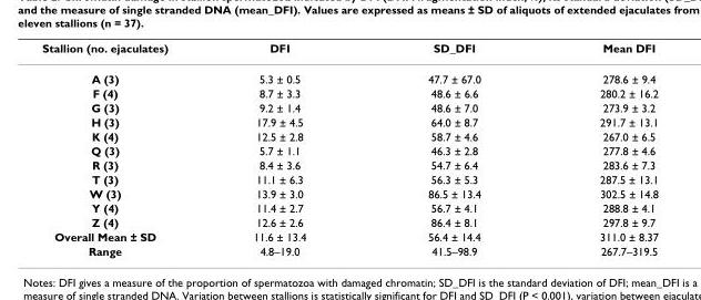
<table><thead><tr><td>Stallion (no. ejaculates)</td><td>DFI</td><td>SD_DFI</td><td>Mean DFI</td></tr></thead><tbody><tr><td>A (3)</td><td>5.3 ± 0.5</td><td>47.7 ± 67.0</td><td>278.6 ± 9.4</td></tr><tr><td>F (4)</td><td>8.7 ± 3.3</td><td>48.6 ± 6.6</td><td>280.2 ± 16.2</td></tr><tr><td>G (3)</td><td>9.2 ± 1.4</td><td>48.6 ± 7.0</td><td>273.9 ± 3.2</td></tr><tr><td>H (3)</td><td>17.9 ± 4.5</td><td>64.0 ± 8.7</td><td>291.7 ± 13.1</td></tr><tr><td>K (4)</td><td>12.5 ± 2.8</td><td>58.7 ± 4.6</td><td>267.0 ± 6.5</td></tr><tr><td>Q (3)</td><td>5.7 ± 1.1</td><td>46.3 ± 2.8</td><td>277.8 ± 4.6</td></tr><tr><td>R (3)</td><td>8.4 ± 3.6</td><td>54.7 ± 6.4</td><td>283.6 ± 7.3</td></tr><tr><td>T (3)</td><td>11.1 ± 6.3</td><td>56.3 ± 5.3</td><td>287.5 ± 13.1</td></tr><tr><td>W (3)</td><td>13.9 ± 3.0</td><td>86.5 ± 13.4</td><td>302.5 ± 14.8</td></tr><tr><td>Y (4)</td><td>11.4 ± 2.7</td><td>56.7 ± 4.1</td><td>288.8 ± 4.1</td></tr><tr><td>Z (4)</td><td>12.6 ± 2.6</td><td>86.4 ± 8.1</td><td>297.8 ± 9.7</td></tr><tr><td>Overall Mean ± SD</td><td>11.6 ± 13.4</td><td>56.4 ± 14.4</td><td>311.0 ± 8.37</td></tr><tr><td>Range</td><td>4.8–19.0</td><td>41.5–98.9</td><td>267.7–319.5</td></tr></tbody></table>